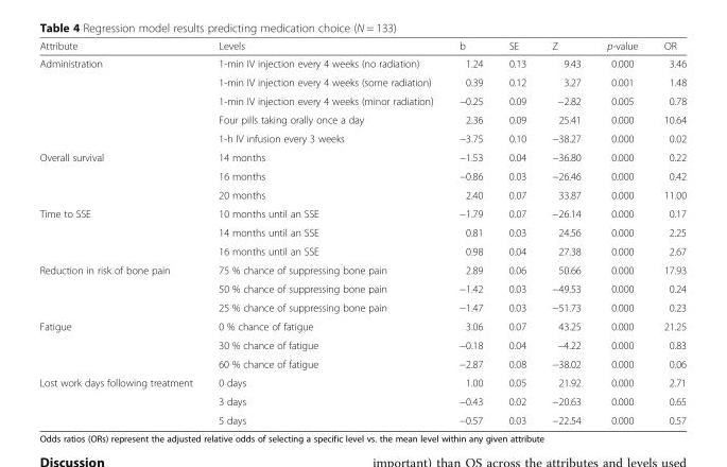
<table><thead><tr><td>Attribute</td><td>Levels</td><td>b</td><td>SE</td><td>Z</td><td>p-value</td><td>OR</td></tr></thead><tbody><tr><td rowspan="5">Administration</td><td>1-min IV injection every 4 weeks (no radiation)</td><td>1.24</td><td>0.13</td><td>9.43</td><td>0.000</td><td>3.46</td></tr><tr><td>1-min IV injection every 4 weeks (some radiation)</td><td>0.39</td><td>0.12</td><td>3.27</td><td>0.001</td><td>1.48</td></tr><tr><td>1-min IV injection every 4 weeks (minor radiation)</td><td>−0.25</td><td>0.09</td><td>−2.82</td><td>0.005</td><td>0.78</td></tr><tr><td>Four pills taking orally once a day</td><td>2.36</td><td>0.09</td><td>25.41</td><td>0.000</td><td>10.64</td></tr><tr><td>1-h IV infusion every 3 weeks</td><td>−3.75</td><td>0.10</td><td>−38.27</td><td>0.000</td><td>0.02</td></tr><tr><td rowspan="3">Overall survival</td><td>14 months</td><td>−1.53</td><td>0.04</td><td>−36.80</td><td>0.000</td><td>0.22</td></tr><tr><td>16 months</td><td>−0.86</td><td>0.03</td><td>−26.46</td><td>0.000</td><td>0.42</td></tr><tr><td>20 months</td><td>2.40</td><td>0.07</td><td>33.87</td><td>0.000</td><td>11.00</td></tr><tr><td rowspan="3">Time to SSE</td><td>10 months until an SSE</td><td>−1.79</td><td>0.07</td><td>−26.14</td><td>0.000</td><td>0.17</td></tr><tr><td>14 months until an SSE</td><td>0.81</td><td>0.03</td><td>24.56</td><td>0.000</td><td>2.25</td></tr><tr><td>16 months until an SSE</td><td>0.98</td><td>0.04</td><td>27.38</td><td>0.000</td><td>2.67</td></tr><tr><td rowspan="3">Reduction in risk of bone pain</td><td>75 % chance of suppressing bone pain</td><td>2.89</td><td>0.06</td><td>50.66</td><td>0.000</td><td>17.93</td></tr><tr><td>50 % chance of suppressing bone pain</td><td>−1.42</td><td>0.03</td><td>−49.53</td><td>0.000</td><td>0.24</td></tr><tr><td>25 % chance of suppressing bone pain</td><td>−1.47</td><td>0.03</td><td>−51.73</td><td>0.000</td><td>0.23</td></tr><tr><td rowspan="3">Fatigue</td><td>0 % chance of fatigue</td><td>3.06</td><td>0.07</td><td>43.25</td><td>0.000</td><td>21.25</td></tr><tr><td>30 % chance of fatigue</td><td>−0.18</td><td>0.04</td><td>−4.22</td><td>0.000</td><td>0.83</td></tr><tr><td>60 % chance of fatigue</td><td>−2.87</td><td>0.08</td><td>−38.02</td><td>0.000</td><td>0.06</td></tr><tr><td rowspan="3">Lost work days following treatment</td><td>0 days</td><td>1.00</td><td>0.05</td><td>21.92</td><td>0.000</td><td>2.71</td></tr><tr><td>3 days</td><td>−0.43</td><td>0.02</td><td>−20.63</td><td>0.000</td><td>0.65</td></tr><tr><td>5 days</td><td>−0.57</td><td>0.03</td><td>−22.54</td><td>0.000</td><td>0.57</td></tr></tbody></table>